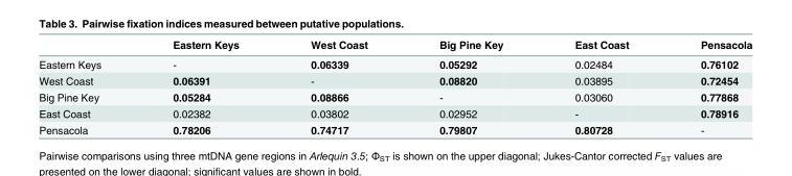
<table><thead><tr><td></td><td>Eastern Keys</td><td>West Coast</td><td>Big Pine Key</td><td>East Coast</td><td>Pensacola</td></tr></thead><tbody><tr><td>Eastern Keys</td><td>-</td><td>0.06339</td><td>0.05292</td><td>0.02484</td><td>0.76102</td></tr><tr><td>West Coast</td><td>0.06391</td><td>-</td><td>0.08820</td><td>0.03895</td><td>0.72454</td></tr><tr><td>Big Pine Key</td><td>0.05284</td><td>0.08866</td><td>-</td><td>0.03060</td><td>0.77868</td></tr><tr><td>East Coast</td><td>0.02382</td><td>0.03802</td><td>0.02952</td><td>-</td><td>0.78916</td></tr><tr><td>Pensacola</td><td>0.78206</td><td>0.74717</td><td>0.79807</td><td>0.80728</td><td>-</td></tr></tbody></table>